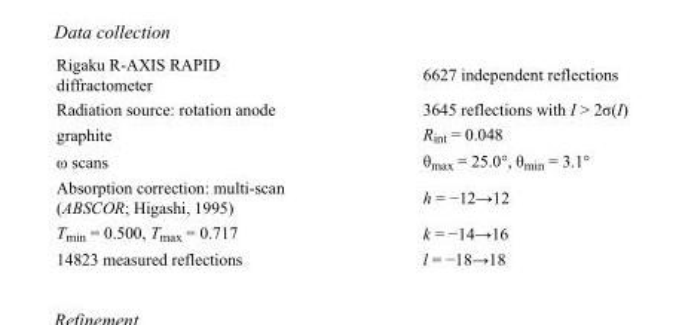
<table><tbody><tr><td>Rigaku R-AXIS RAPID diffractometer</td><td>6627 independent reflections</td></tr><tr><td>Radiation source: rotation anode</td><td>3645 reflections with I &gt; 2σ(I)</td></tr><tr><td>graphite</td><td>R<sub>int</sub> = 0.048</td></tr><tr><td>ω scans</td><td>θ<sub>max</sub> = 25.0°, θ<sub>min</sub> = 3.1°</td></tr><tr><td>Absorption correction: multi-scan (ABSCOR; Higashi, 1995)</td><td>h = −12→12</td></tr><tr><td>T<sub>min</sub> = 0.500, T<sub>max</sub> = 0.717</td><td>k = −14→16</td></tr><tr><td>14823 measured reflections</td><td>l = −18→18</td></tr></tbody></table>